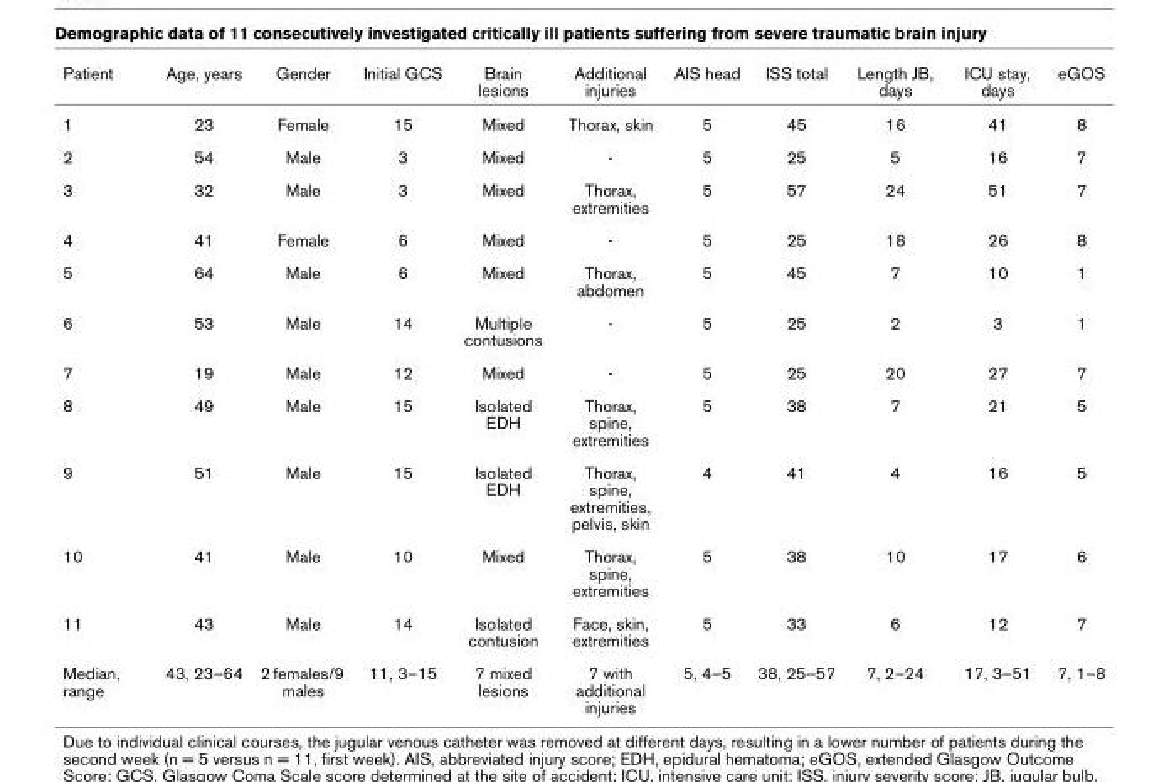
<table><thead><tr><td>Patient</td><td>Age, years</td><td>Gender</td><td>Initial GCS</td><td>Brain lesions</td><td>Additional injuries</td><td>AIS head</td><td>ISS total</td><td>Length JB, days</td><td>ICU stay, days</td><td>eGOS</td></tr></thead><tbody><tr><td>1</td><td>23</td><td>Female</td><td>15</td><td>Mixed</td><td>Thorax, skin</td><td>5</td><td>45</td><td>16</td><td>41</td><td>8</td></tr><tr><td>2</td><td>54</td><td>Male</td><td>3</td><td>Mixed</td><td>-</td><td>5</td><td>25</td><td>5</td><td>16</td><td>7</td></tr><tr><td>3</td><td>32</td><td>Male</td><td>3</td><td>Mixed</td><td>Thorax, extremities</td><td>5</td><td>57</td><td>24</td><td>51</td><td>7</td></tr><tr><td>4</td><td>41</td><td>Female</td><td>6</td><td>Mixed</td><td>-</td><td>5</td><td>25</td><td>18</td><td>26</td><td>8</td></tr><tr><td>5</td><td>64</td><td>Male</td><td>6</td><td>Mixed</td><td>Thorax, abdomen</td><td>5</td><td>45</td><td>7</td><td>10</td><td>1</td></tr><tr><td>6</td><td>53</td><td>Male</td><td>14</td><td>Multiple contusions</td><td>-</td><td>5</td><td>25</td><td>2</td><td>3</td><td>1</td></tr><tr><td>7</td><td>19</td><td>Male</td><td>12</td><td>Mixed</td><td>-</td><td>5</td><td>25</td><td>20</td><td>27</td><td>7</td></tr><tr><td>8</td><td>49</td><td>Male</td><td>15</td><td>Isolated EDH</td><td>Thorax, spine, extremities</td><td>5</td><td>38</td><td>7</td><td>21</td><td>5</td></tr><tr><td>9</td><td>51</td><td>Male</td><td>15</td><td>Isolated EDH</td><td>Thorax, spine, extremities, pelvis, skin</td><td>4</td><td>41</td><td>4</td><td>16</td><td>5</td></tr><tr><td>10</td><td>41</td><td>Male</td><td>10</td><td>Mixed</td><td>Thorax, spine, extremities</td><td>5</td><td>38</td><td>10</td><td>17</td><td>6</td></tr><tr><td>11</td><td>43</td><td>Male</td><td>14</td><td>Isolated contusion</td><td>Face, skin, extremities</td><td>5</td><td>33</td><td>6</td><td>12</td><td>7</td></tr><tr><td>Median, range</td><td>43, 23–64</td><td>2 females/9 males</td><td>11, 3–15</td><td>7 mixed lesions</td><td>7 with additional injuries</td><td>5, 4–5</td><td>38, 25–57</td><td>7, 2–24</td><td>17, 3–51</td><td>7, 1–8</td></tr></tbody></table>